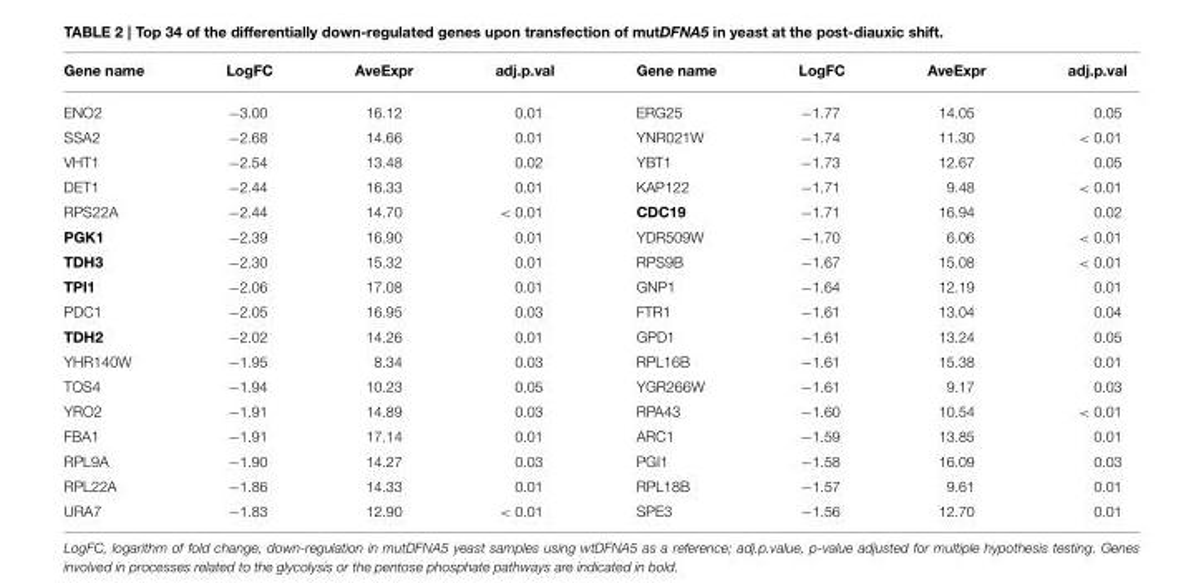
<table><thead><tr><td>Gene name</td><td>LogFC</td><td>AveExpr</td><td>adj.p.val</td><td>Gene name</td><td>LogFC</td><td>AveExpr</td><td>adj.p.val</td></tr></thead><tbody><tr><td>ENO2</td><td>−3.00</td><td>16.12</td><td>0.01</td><td>ERG25</td><td>−1.77</td><td>14.05</td><td>0.05</td></tr><tr><td>SSA2</td><td>−2.68</td><td>14.66</td><td>0.01</td><td>YNR021W</td><td>−1.74</td><td>11.30</td><td>&lt; 0.01</td></tr><tr><td>VHT1</td><td>−2.54</td><td>13.48</td><td>0.02</td><td>YBT1</td><td>−1.73</td><td>12.67</td><td>0.05</td></tr><tr><td>DET1</td><td>−2.44</td><td>16.33</td><td>0.01</td><td>KAP122</td><td>−1.71</td><td>9.48</td><td>&lt; 0.01</td></tr><tr><td>RPS22A</td><td>−2.44</td><td>14.70</td><td>&lt; 0.01</td><td>CDC19</td><td>−1.71</td><td>16.94</td><td>0.02</td></tr><tr><td>PGK1</td><td>−2.39</td><td>16.90</td><td>0.01</td><td>YDR509W</td><td>−1.70</td><td>6.06</td><td>&lt; 0.01</td></tr><tr><td>TDH3</td><td>−2.30</td><td>15.32</td><td>0.01</td><td>RPS9B</td><td>−1.67</td><td>15.08</td><td>&lt; 0.01</td></tr><tr><td>TPI1</td><td>−2.06</td><td>17.08</td><td>0.01</td><td>GNP1</td><td>−1.64</td><td>12.19</td><td>0.01</td></tr><tr><td>PDC1</td><td>−2.05</td><td>16.95</td><td>0.03</td><td>FTR1</td><td>−1.61</td><td>13.04</td><td>0.04</td></tr><tr><td>TDH2</td><td>−2.02</td><td>14.26</td><td>0.01</td><td>GPD1</td><td>−1.61</td><td>13.24</td><td>0.05</td></tr><tr><td>YHR140W</td><td>−1.95</td><td>8.34</td><td>0.03</td><td>RPL16B</td><td>−1.61</td><td>15.38</td><td>0.01</td></tr><tr><td>TOS4</td><td>−1.94</td><td>10.23</td><td>0.05</td><td>YGR266W</td><td>−1.61</td><td>9.17</td><td>0.03</td></tr><tr><td>YRO2</td><td>−1.91</td><td>14.89</td><td>0.03</td><td>RPA43</td><td>−1.60</td><td>10.54</td><td>&lt; 0.01</td></tr><tr><td>FBA1</td><td>−1.91</td><td>17.14</td><td>0.01</td><td>ARC1</td><td>−1.59</td><td>13.85</td><td>0.01</td></tr><tr><td>RPL9A</td><td>−1.90</td><td>14.27</td><td>0.03</td><td>PGI1</td><td>−1.58</td><td>16.09</td><td>0.03</td></tr><tr><td>RPL22A</td><td>−1.86</td><td>14.33</td><td>0.01</td><td>RPL18B</td><td>−1.57</td><td>9.61</td><td>0.01</td></tr><tr><td>URA7</td><td>−1.83</td><td>12.90</td><td>&lt; 0.01</td><td>SPE3</td><td>−1.56</td><td>12.70</td><td>0.01</td></tr></tbody></table>